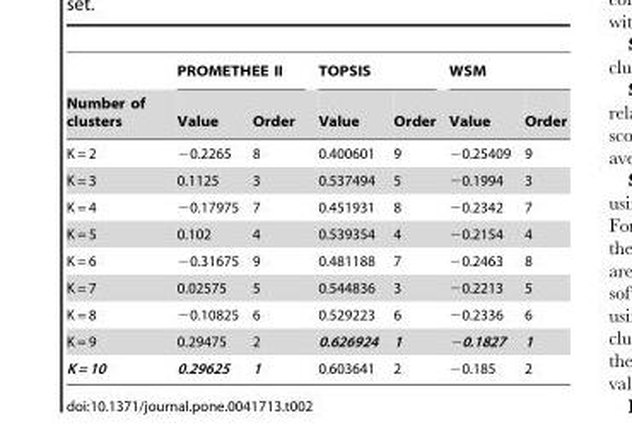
<table><thead><tr><td rowspan="2">Number of clusters</td><td colspan="2">PROMETHEE II</td><td colspan="2">TOPSIS</td><td colspan="2">WSM</td></tr><tr><td>Value</td><td>Order</td><td>Value</td><td>Order</td><td>Value</td><td>Order</td></tr></thead><tbody><tr><td>K = 2</td><td>−0.2265</td><td>8</td><td>0.400601</td><td>9</td><td>−0.25409</td><td>9</td></tr><tr><td>K = 3</td><td>0.1125</td><td>3</td><td>0.537494</td><td>5</td><td>−0.1994</td><td>3</td></tr><tr><td>K = 4</td><td>−0.17975</td><td>7</td><td>0.451931</td><td>8</td><td>−0.2342</td><td>7</td></tr><tr><td>K = 5</td><td>0.102</td><td>4</td><td>0.539354</td><td>4</td><td>−0.2154</td><td>4</td></tr><tr><td>K = 6</td><td>−0.31675</td><td>9</td><td>0.481188</td><td>7</td><td>−0.2463</td><td>8</td></tr><tr><td>K = 7</td><td>0.02575</td><td>5</td><td>0.544836</td><td>3</td><td>−0.2213</td><td>5</td></tr><tr><td>K = 8</td><td>−0.10825</td><td>6</td><td>0.529223</td><td>6</td><td>−0.2336</td><td>6</td></tr><tr><td>K = 9</td><td>0.29475</td><td>2</td><td>0.626924</td><td>1</td><td>−0.1827</td><td>1</td></tr><tr><td>K = 10</td><td>0.29625</td><td>1</td><td>0.603641</td><td>2</td><td>−0.185</td><td>2</td></tr></tbody></table>